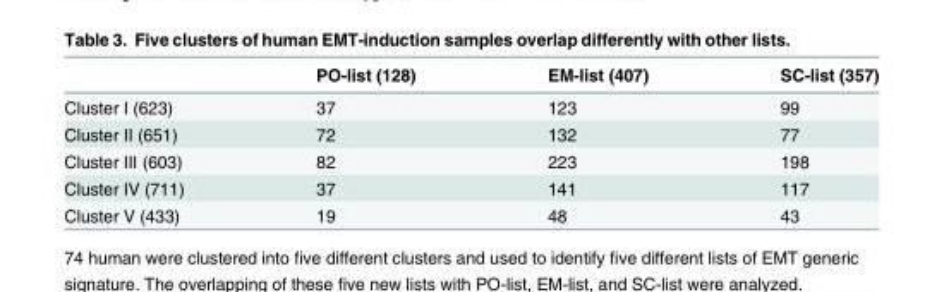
<table><thead><tr><td></td><td>PO-list (128)</td><td>EM-list (407)</td><td>SC-list (357)</td></tr></thead><tbody><tr><td>Cluster I (623)</td><td>37</td><td>123</td><td>99</td></tr><tr><td>Cluster II (651)</td><td>72</td><td>132</td><td>77</td></tr><tr><td>Cluster III (603)</td><td>82</td><td>223</td><td>198</td></tr><tr><td>Cluster IV (711)</td><td>37</td><td>141</td><td>117</td></tr><tr><td>Cluster V (433)</td><td>19</td><td>48</td><td>43</td></tr></tbody></table>